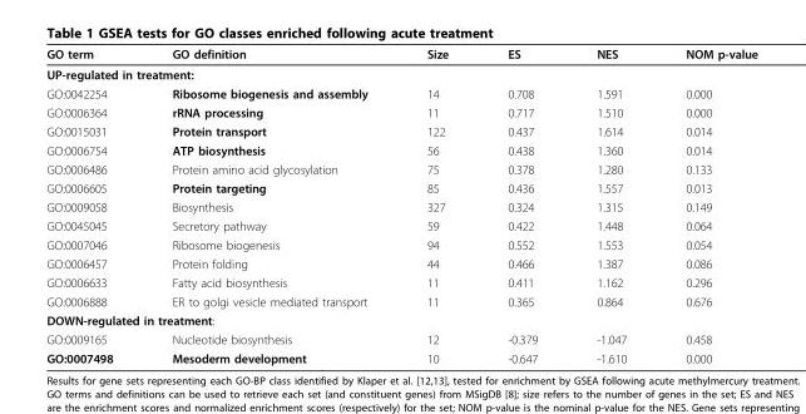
<table><thead><tr><td>GO term</td><td>GO definition</td><td>Size</td><td>ES</td><td>NES</td><td>NOM p-value</td></tr></thead><tbody><tr><td colspan="6">UP-regulated in treatment:</td></tr><tr><td>GO:0042254</td><td>Ribosome biogenesis and assembly</td><td>14</td><td>0.708</td><td>1.591</td><td>0.000</td></tr><tr><td>GO:0006364</td><td>rRNA processing</td><td>11</td><td>0.717</td><td>1.510</td><td>0.000</td></tr><tr><td>GO:0015031</td><td>Protein transport</td><td>122</td><td>0.437</td><td>1.614</td><td>0.014</td></tr><tr><td>GO:0006754</td><td>ATP biosynthesis</td><td>56</td><td>0.438</td><td>1.360</td><td>0.014</td></tr><tr><td>GO:0006486</td><td>Protein amino acid glycosylation</td><td>75</td><td>0.378</td><td>1.280</td><td>0.133</td></tr><tr><td>GO:0006605</td><td>Protein targeting</td><td>85</td><td>0.436</td><td>1.557</td><td>0.013</td></tr><tr><td>GO:0009058</td><td>Biosynthesis</td><td>327</td><td>0.324</td><td>1.315</td><td>0.149</td></tr><tr><td>GO:0045045</td><td>Secretory pathway</td><td>59</td><td>0.422</td><td>1.448</td><td>0.064</td></tr><tr><td>GO:0007046</td><td>Ribosome biogenesis</td><td>94</td><td>0.552</td><td>1.553</td><td>0.054</td></tr><tr><td>GO:0006457</td><td>Protein folding</td><td>44</td><td>0.466</td><td>1.387</td><td>0.086</td></tr><tr><td>GO:0006633</td><td>Fatty acid biosynthesis</td><td>11</td><td>0.411</td><td>1.162</td><td>0.296</td></tr><tr><td>GO:0006888</td><td>ER to golgi vesicle mediated transport</td><td>11</td><td>0.365</td><td>0.864</td><td>0.676</td></tr><tr><td colspan="6">DOWN-regulated in treatment:</td></tr><tr><td>GO:0009165</td><td>Nucleotide biosynthesis</td><td>12</td><td>-0.379</td><td>-1.047</td><td>0.458</td></tr><tr><td>GO:0007498</td><td>Mesoderm development</td><td>10</td><td>-0.647</td><td>-1.610</td><td>0.000</td></tr></tbody></table>